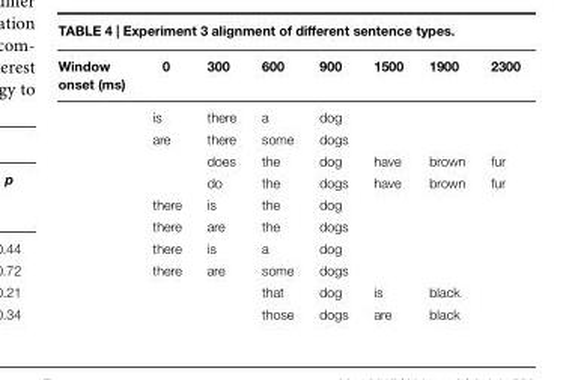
<table><thead><tr><td>Window onset (ms)</td><td>0</td><td>300</td><td>600</td><td>900</td><td>1500</td><td>1900</td><td>2300</td></tr></thead><tbody><tr><td></td><td>is</td><td>there</td><td>a</td><td>dog</td><td></td><td></td><td></td></tr><tr><td></td><td>are</td><td>there</td><td>some</td><td>dogs</td><td></td><td></td><td></td></tr><tr><td></td><td></td><td>does</td><td>the</td><td>dog</td><td>have</td><td>brown</td><td>fur</td></tr><tr><td></td><td></td><td>do</td><td>the</td><td>dogs</td><td>have</td><td>brown</td><td>fur</td></tr><tr><td></td><td>there</td><td>is</td><td>the</td><td>dog</td><td></td><td></td><td></td></tr><tr><td></td><td>there</td><td>are</td><td>the</td><td>dogs</td><td></td><td></td><td></td></tr><tr><td></td><td>there</td><td>is</td><td>a</td><td>dog</td><td></td><td></td><td></td></tr><tr><td></td><td>there</td><td>are</td><td>some</td><td>dogs</td><td></td><td></td><td></td></tr><tr><td></td><td></td><td></td><td>that</td><td>dog</td><td>is</td><td>black</td><td></td></tr><tr><td></td><td></td><td></td><td>those</td><td>dogs</td><td>are</td><td>black</td><td></td></tr></tbody></table>